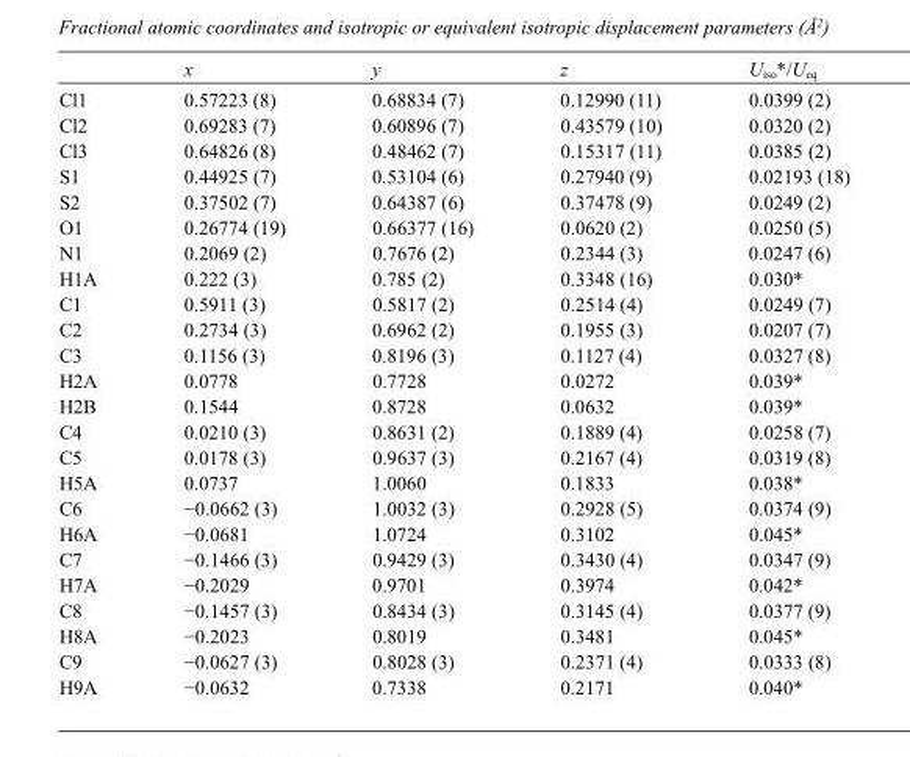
<table><thead><tr><td></td><td>x</td><td>y</td><td>z</td><td>U<sub>iso</sub>*/U<sub>eq</sub></td></tr></thead><tbody><tr><td>Cl1</td><td>0.57223 (8)</td><td>0.68834 (7)</td><td>0.12990 (11)</td><td>0.0399 (2)</td></tr><tr><td>Cl2</td><td>0.69283 (7)</td><td>0.60896 (7)</td><td>0.43579 (10)</td><td>0.0320 (2)</td></tr><tr><td>Cl3</td><td>0.64826 (8)</td><td>0.48462 (7)</td><td>0.15317 (11)</td><td>0.0385 (2)</td></tr><tr><td>S1</td><td>0.44925 (7)</td><td>0.53104 (6)</td><td>0.27940 (9)</td><td>0.02193 (18)</td></tr><tr><td>S2</td><td>0.37502 (7)</td><td>0.64387 (6)</td><td>0.37478 (9)</td><td>0.0249 (2)</td></tr><tr><td>O1</td><td>0.26774 (19)</td><td>0.66377 (16)</td><td>0.0620 (2)</td><td>0.0250 (5)</td></tr><tr><td>N1</td><td>0.2069 (2)</td><td>0.7676 (2)</td><td>0.2344 (3)</td><td>0.0247 (6)</td></tr><tr><td>H1A</td><td>0.222 (3)</td><td>0.785 (2)</td><td>0.3348 (16)</td><td>0.030*</td></tr><tr><td>C1</td><td>0.5911 (3)</td><td>0.5817 (2)</td><td>0.2514 (4)</td><td>0.0249 (7)</td></tr><tr><td>C2</td><td>0.2734 (3)</td><td>0.6962 (2)</td><td>0.1955 (3)</td><td>0.0207 (7)</td></tr><tr><td>C3</td><td>0.1156 (3)</td><td>0.8196 (3)</td><td>0.1127 (4)</td><td>0.0327 (8)</td></tr><tr><td>H2A</td><td>0.0778</td><td>0.7728</td><td>0.0272</td><td>0.039*</td></tr><tr><td>H2B</td><td>0.1544</td><td>0.8728</td><td>0.0632</td><td>0.039*</td></tr><tr><td>C4</td><td>0.0210 (3)</td><td>0.8631 (2)</td><td>0.1889 (4)</td><td>0.0258 (7)</td></tr><tr><td>C5</td><td>0.0178 (3)</td><td>0.9637 (3)</td><td>0.2167 (4)</td><td>0.0319 (8)</td></tr><tr><td>H5A</td><td>0.0737</td><td>1.0060</td><td>0.1833</td><td>0.038*</td></tr><tr><td>C6</td><td>−0.0662 (3)</td><td>1.0032 (3)</td><td>0.2928 (5)</td><td>0.0374 (9)</td></tr><tr><td>H6A</td><td>−0.0681</td><td>1.0724</td><td>0.3102</td><td>0.045*</td></tr><tr><td>C7</td><td>−0.1466 (3)</td><td>0.9429 (3)</td><td>0.3430 (4)</td><td>0.0347 (9)</td></tr><tr><td>H7A</td><td>−0.2029</td><td>0.9701</td><td>0.3974</td><td>0.042*</td></tr><tr><td>C8</td><td>−0.1457 (3)</td><td>0.8434 (3)</td><td>0.3145 (4)</td><td>0.0377 (9)</td></tr><tr><td>H8A</td><td>−0.2023</td><td>0.8019</td><td>0.3481</td><td>0.045*</td></tr><tr><td>C9</td><td>−0.0627 (3)</td><td>0.8028 (3)</td><td>0.2371 (4)</td><td>0.0333 (8)</td></tr><tr><td>H9A</td><td>−0.0632</td><td>0.7338</td><td>0.2171</td><td>0.040*</td></tr></tbody></table>